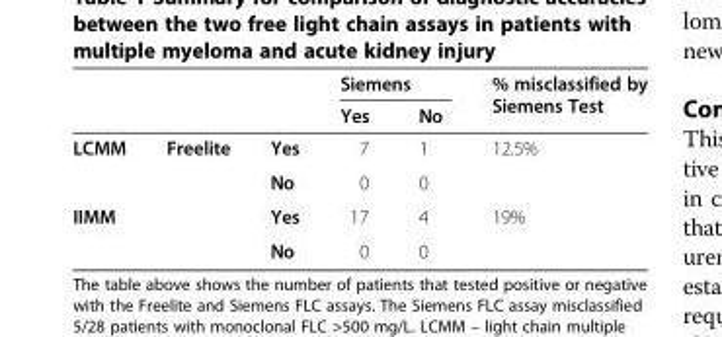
<table><thead><tr><td rowspan="2"></td><td rowspan="2"></td><td rowspan="2"></td><td colspan="2">Siemens</td><td rowspan="2">% misclassified by Siemens Test</td></tr><tr><td>Yes</td><td>No</td></tr></thead><tbody><tr><td rowspan="2">LCMM</td><td>Freelite</td><td>Yes</td><td>7</td><td>1</td><td rowspan="2">12.5%</td></tr><tr><td></td><td>No</td><td>0</td><td>0</td></tr><tr><td rowspan="2">IIMM</td><td></td><td>Yes</td><td>17</td><td>4</td><td>19%</td></tr><tr><td></td><td>No</td><td>0</td><td>0</td><td></td></tr></tbody></table>